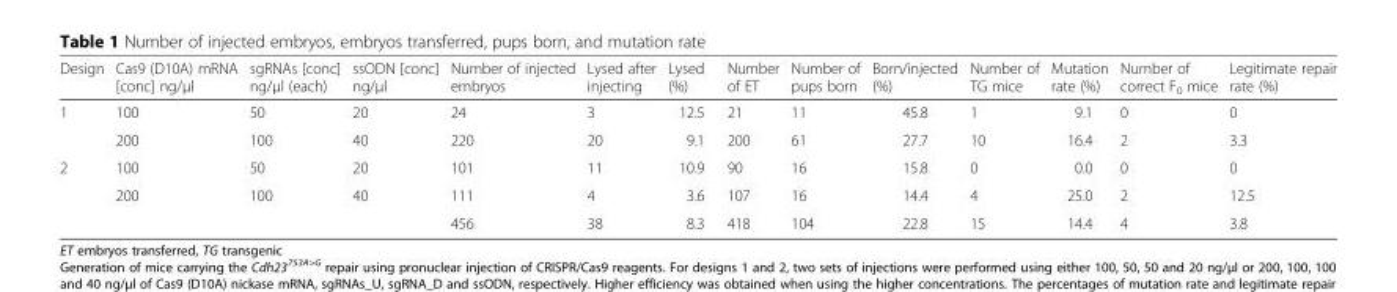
<table><thead><tr><td>Design</td><td>Cas9 (D10A) mRNA [conc] ng/μl</td><td>sgRNAs [conc] ng/μl (each)</td><td>ssODN [conc] ng/μl</td><td>Number of injected embryos</td><td>Lysed after injecting</td><td>Lysed (%)</td><td>Number of ET</td><td>Number of pups born</td><td>Born/injected (%)</td><td>Number of TG mice</td><td>Mutation rate (%)</td><td>Number of correct F<sub>0</sub> mice</td><td>Legitimate repair rate (%)</td></tr></thead><tbody><tr><td rowspan="2">1</td><td>100</td><td>50</td><td>20</td><td>24</td><td>3</td><td>12.5</td><td>21</td><td>11</td><td>45.8</td><td>1</td><td>9.1</td><td>0</td><td>0</td></tr><tr><td>200</td><td>100</td><td>40</td><td>220</td><td>20</td><td>9.1</td><td>200</td><td>61</td><td>27.7</td><td>10</td><td>16.4</td><td>2</td><td>3.3</td></tr><tr><td rowspan="3">2</td><td>100</td><td>50</td><td>20</td><td>101</td><td>11</td><td>10.9</td><td>90</td><td>16</td><td>15.8</td><td>0</td><td>0.0</td><td>0</td><td>0</td></tr><tr><td>200</td><td>100</td><td>40</td><td>111</td><td>4</td><td>3.6</td><td>107</td><td>16</td><td>14.4</td><td>4</td><td>25.0</td><td>2</td><td>12.5</td></tr><tr><td></td><td></td><td></td><td>456</td><td>38</td><td>8.3</td><td>418</td><td>104</td><td>22.8</td><td>15</td><td>14.4</td><td>4</td><td>3.8</td></tr></tbody></table>